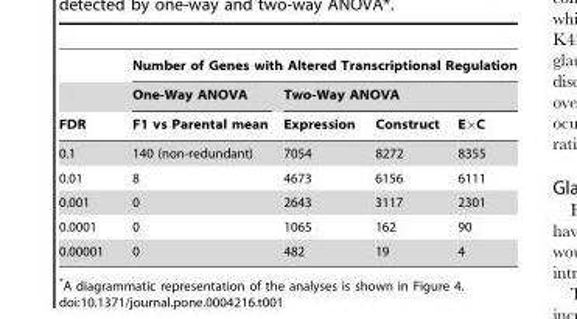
<table><thead><tr><td rowspan="3">FDR</td><td colspan="4">Number of Genes with Altered Transcriptional Regulation</td></tr><tr><td rowspan="2">One-Way ANOVA F1 vs Parental mean</td><td colspan="3">Two-Way ANOVA</td></tr><tr><td>Expression</td><td>Construct</td><td>E×C</td></tr></thead><tbody><tr><td>0.1</td><td>140 (non-redundant)</td><td>7054</td><td>8272</td><td>8355</td></tr><tr><td>0.01</td><td>8</td><td>4673</td><td>6156</td><td>6111</td></tr><tr><td>0.001</td><td>0</td><td>2643</td><td>3117</td><td>2301</td></tr><tr><td>0.0001</td><td>0</td><td>1065</td><td>162</td><td>90</td></tr><tr><td>0.00001</td><td>0</td><td>482</td><td>19</td><td>4</td></tr></tbody></table>